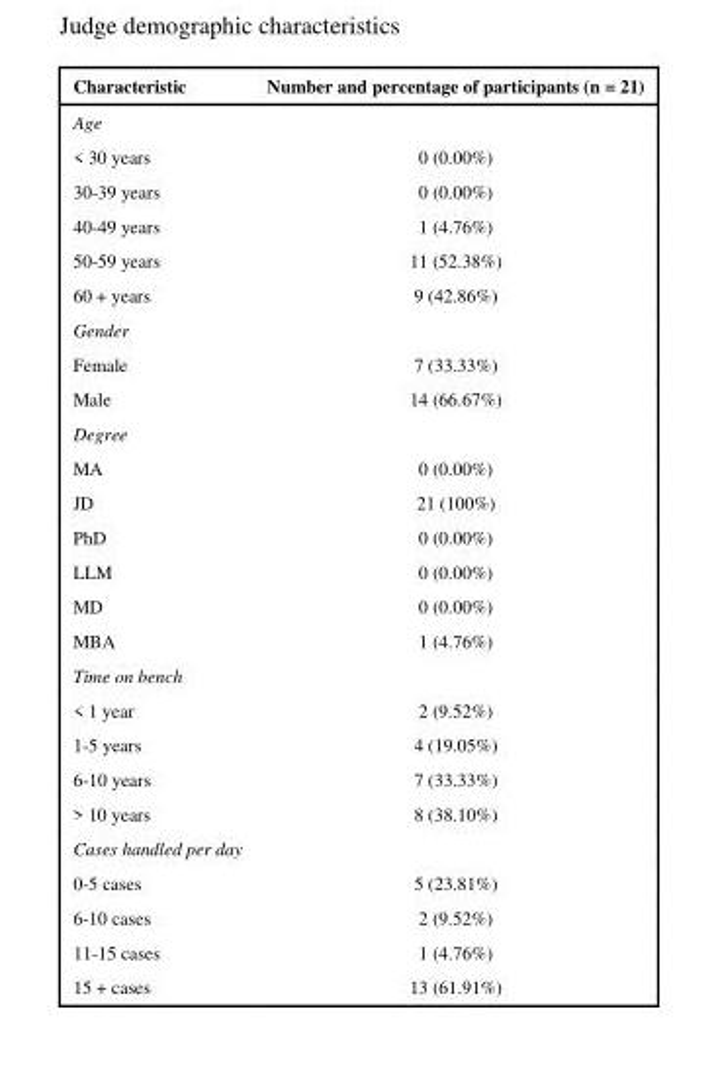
<table><thead><tr><td>Characteristic</td><td>Number and percentage of participants (n = 21)</td></tr></thead><tbody><tr><td colspan="2">Age</td></tr><tr><td>&lt; 30 years</td><td>0 (0.00%)</td></tr><tr><td>30-39 years</td><td>0 (0.00%)</td></tr><tr><td>40-49 years</td><td>1 (4.76%)</td></tr><tr><td>50-59 years</td><td>11 (52.38%)</td></tr><tr><td>60 + years</td><td>9 (42.86%)</td></tr><tr><td colspan="2">Gender</td></tr><tr><td>Female</td><td>7 (33.33%)</td></tr><tr><td>Male</td><td>14 (66.67%)</td></tr><tr><td colspan="2">Degree</td></tr><tr><td>MA</td><td>0 (0.00%)</td></tr><tr><td>JD</td><td>21 (100%)</td></tr><tr><td>PhD</td><td>0 (0.00%)</td></tr><tr><td>LLM</td><td>0 (0.00%)</td></tr><tr><td>MD</td><td>0 (0.00%)</td></tr><tr><td>MBA</td><td>1 (4.76%)</td></tr><tr><td colspan="2">Time on bench</td></tr><tr><td>&lt; 1 year</td><td>2 (9.52%)</td></tr><tr><td>1-5 years</td><td>4 (19.05%)</td></tr><tr><td>6-10 years</td><td>7 (33.33%)</td></tr><tr><td>&gt; 10 years</td><td>8 (38.10%)</td></tr><tr><td colspan="2">Cases handled per day</td></tr><tr><td>0-5 cases</td><td>5 (23.81%)</td></tr><tr><td>6-10 cases</td><td>2 (9.52%)</td></tr><tr><td>11-15 cases</td><td>1 (4.76%)</td></tr><tr><td>15 + cases</td><td>13 (61.91%)</td></tr></tbody></table>